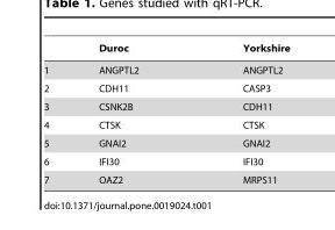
<table><thead><tr><td></td><td>Duroc</td><td>Yorkshire</td></tr></thead><tbody><tr><td>1</td><td>ANGPTL2</td><td>ANGPTL2</td></tr><tr><td>2</td><td>CDH11</td><td>CASP3</td></tr><tr><td>3</td><td>CSNK2B</td><td>CDH11</td></tr><tr><td>4</td><td>CTSK</td><td>CTSK</td></tr><tr><td>5</td><td>GNAI2</td><td>GNAI2</td></tr><tr><td>6</td><td>IFI30</td><td>IFI30</td></tr><tr><td>7</td><td>OAZ2</td><td>MRPS11</td></tr></tbody></table>